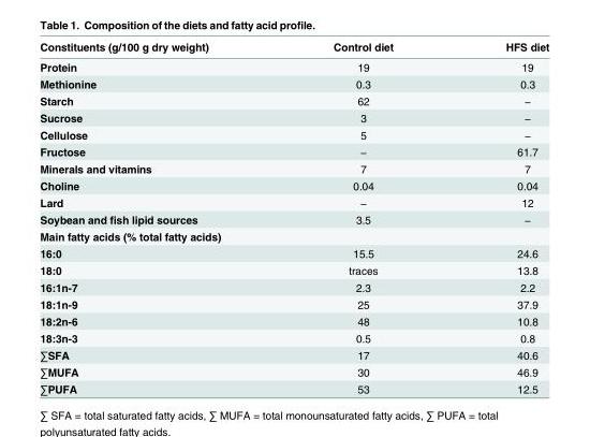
<table><thead><tr><td>Constituents (g/100 g dry weight)</td><td>Control diet</td><td>HFS diet</td></tr></thead><tbody><tr><td>Protein</td><td>19</td><td>19</td></tr><tr><td>Methionine</td><td>0.3</td><td>0.3</td></tr><tr><td>Starch</td><td>62</td><td>−</td></tr><tr><td>Sucrose</td><td>3</td><td>−</td></tr><tr><td>Cellulose</td><td>5</td><td>−</td></tr><tr><td>Fructose</td><td>−</td><td>61.7</td></tr><tr><td>Minerals and vitamins</td><td>7</td><td>7</td></tr><tr><td>Choline</td><td>0.04</td><td>0.04</td></tr><tr><td>Lard</td><td>−</td><td>12</td></tr><tr><td>Soybean and fish lipid sources</td><td>3.5</td><td>−</td></tr><tr><td colspan="3">Main fatty acids (% total fatty acids)</td></tr><tr><td>16:0</td><td>15.5</td><td>24.6</td></tr><tr><td>18:0</td><td>traces</td><td>13.8</td></tr><tr><td>16:1n-7</td><td>2.3</td><td>2.2</td></tr><tr><td>18:1n-9</td><td>25</td><td>37.9</td></tr><tr><td>18:2n-6</td><td>48</td><td>10.8</td></tr><tr><td>18:3n-3</td><td>0.5</td><td>0.8</td></tr><tr><td>∑SFA</td><td>17</td><td>40.6</td></tr><tr><td>∑MUFA</td><td>30</td><td>46.9</td></tr><tr><td>∑PUFA</td><td>53</td><td>12.5</td></tr></tbody></table>